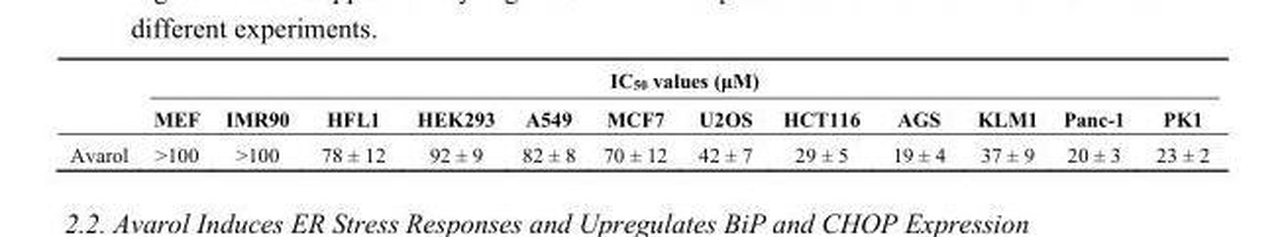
<table><thead><tr><td rowspan="2"></td><td colspan="12">IC<sub>50</sub> values (μM)</td></tr><tr><td>MEF</td><td>IMR90</td><td>HFL1</td><td>HEK293</td><td>A549</td><td>MCF7</td><td>U2OS</td><td>HCT116</td><td>AGS</td><td>KLM1</td><td>Panc-1</td><td>PK1</td></tr></thead><tbody><tr><td>Avarol</td><td>&gt;100</td><td>&gt;100</td><td>78 ± 12</td><td>92 ± 9</td><td>82 ± 8</td><td>70 ± 12</td><td>42 ± 7</td><td>29 ± 5</td><td>19 ± 4</td><td>37 ± 9</td><td>20 ± 3</td><td>23 ± 2</td></tr></tbody></table>